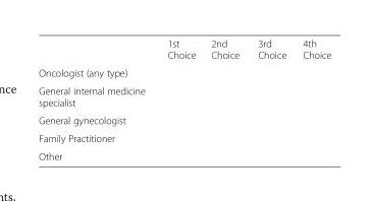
<table><thead><tr><td></td><td>1st Choice</td><td>2nd Choice</td><td>3rd Choice</td><td>4th Choice</td></tr></thead><tbody><tr><td colspan="5">Oncologist (any type)</td></tr><tr><td colspan="5">General internal medicine specialist</td></tr><tr><td colspan="5">General gynecologist</td></tr><tr><td colspan="5">Family Practitioner</td></tr><tr><td>Other</td><td></td><td></td><td></td><td></td></tr></tbody></table>